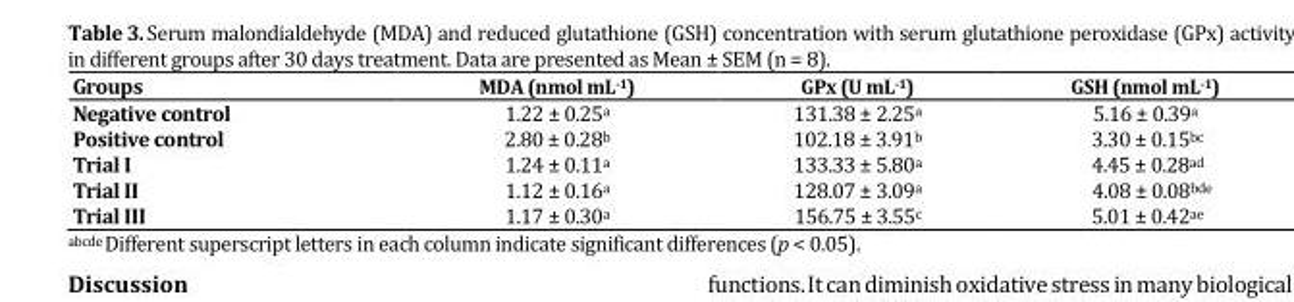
<table><thead><tr><td>Groups</td><td>MDA (nmol mL<sup>-1</sup>)</td><td>GPx (U mL<sup>-1</sup>)</td><td>GSH (nmol mL<sup>-1</sup>)</td></tr></thead><tbody><tr><td>Negative control</td><td>1.22 ± 0.25<sup>a</sup></td><td>131.38 ± 2.25<sup>a</sup></td><td>5.16 ± 0.39<sup>a</sup></td></tr><tr><td>Positive control</td><td>2.80 ± 0.28<sup>b</sup></td><td>102.18 ± 3.91<sup>b</sup></td><td>3.30 ± 0.15<sup>bc</sup></td></tr><tr><td>Trial I</td><td>1.24 ± 0.11<sup>a</sup></td><td>133.33 ± 5.80<sup>a</sup></td><td>4.45 ± 0.28<sup>ad</sup></td></tr><tr><td>Trial II</td><td>1.12 ± 0.16<sup>a</sup></td><td>128.07 ± 3.09<sup>a</sup></td><td>4.08 ± 0.08bde</td></tr><tr><td>Trial III</td><td>1.17 ± 0.30<sup>a</sup></td><td>156.75 ± 3.55<sup>c</sup></td><td>5.01 ± 0.42<sup>ae</sup></td></tr></tbody></table>